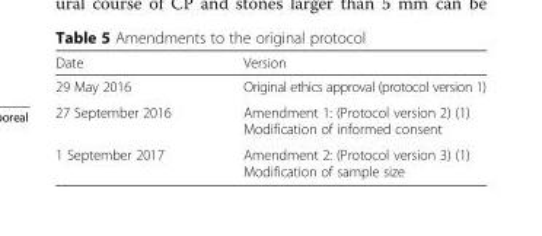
<table><thead><tr><td>Date</td><td>Version</td></tr></thead><tbody><tr><td>29 May 2016</td><td>Original ethics approval (protocol version 1)</td></tr><tr><td>27 September 2016</td><td>Amendment 1: (Protocol version 2) (1) Modification of informed consent</td></tr><tr><td>1 September 2017</td><td>Amendment 2: (Protocol version 3) (1) Modification of sample size</td></tr></tbody></table>